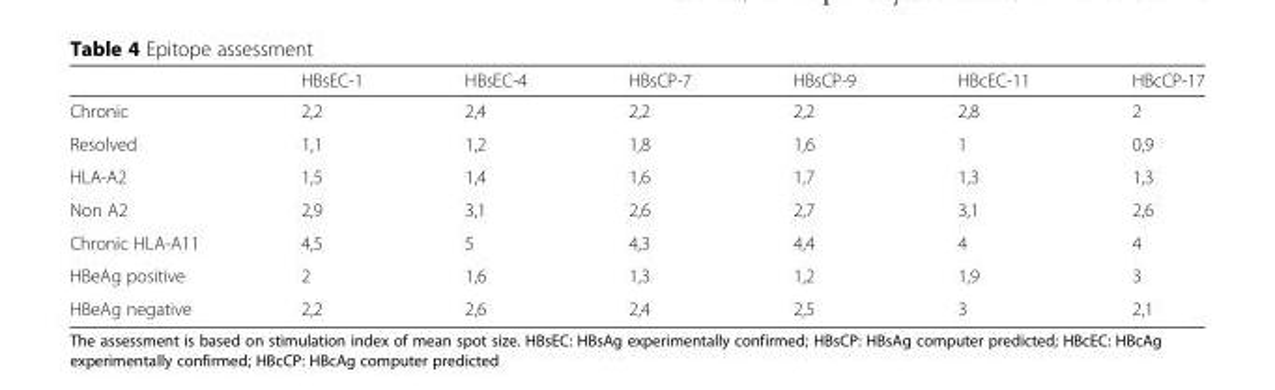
<table><thead><tr><td></td><td>HBsEC-1</td><td>HBsEC-4</td><td>HBsCP-7</td><td>HBsCP-9</td><td>HBcEC-11</td><td>HBcCP-17</td></tr></thead><tbody><tr><td>Chronic</td><td>2,2</td><td>2,4</td><td>2,2</td><td>2,2</td><td>2,8</td><td>2</td></tr><tr><td>Resolved</td><td>1,1</td><td>1,2</td><td>1,8</td><td>1,6</td><td>1</td><td>0,9</td></tr><tr><td>HLA-A2</td><td>1,5</td><td>1,4</td><td>1,6</td><td>1,7</td><td>1,3</td><td>1,3</td></tr><tr><td>Non A2</td><td>2,9</td><td>3,1</td><td>2,6</td><td>2,7</td><td>3,1</td><td>2,6</td></tr><tr><td>Chronic HLA-A11</td><td>4,5</td><td>5</td><td>4,3</td><td>4,4</td><td>4</td><td>4</td></tr><tr><td>HBeAg positive</td><td>2</td><td>1,6</td><td>1,3</td><td>1,2</td><td>1,9</td><td>3</td></tr><tr><td>HBeAg negative</td><td>2,2</td><td>2,6</td><td>2,4</td><td>2,5</td><td>3</td><td>2,1</td></tr></tbody></table>